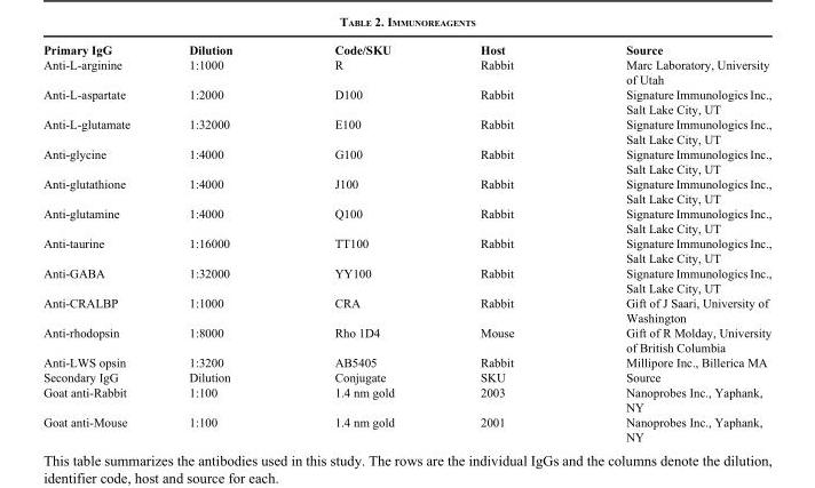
<table><tbody><tr><td>Primary IgG</td><td>Dilution</td><td>Code/SKU</td><td>Host</td><td>Source</td></tr><tr><td>Anti-L-arginine</td><td>1:1000</td><td>R</td><td>Rabbit</td><td>Marc Laboratory, University of Utah</td></tr><tr><td>Anti-L-aspartate</td><td>1:2000</td><td>D100</td><td>Rabbit</td><td>Signature Immunologics Inc., Salt Lake City, UT</td></tr><tr><td>Anti-L-glutamate</td><td>1:32000</td><td>E100</td><td>Rabbit</td><td>Signature Immunologics Inc., Salt Lake City, UT</td></tr><tr><td>Anti-glycine</td><td>1:4000</td><td>G100</td><td>Rabbit</td><td>Signature Immunologics Inc., Salt Lake City, UT</td></tr><tr><td>Anti-glutathione</td><td>1:4000</td><td>J100</td><td>Rabbit</td><td>Signature Immunologics Inc., Salt Lake City, UT</td></tr><tr><td>Anti-glutamine</td><td>1:4000</td><td>Q100</td><td>Rabbit</td><td>Signature Immunologics Inc., Salt Lake City, UT</td></tr><tr><td>Anti-taurine</td><td>1:16000</td><td>TT100</td><td>Rabbit</td><td>Signature Immunologics Inc., Salt Lake City, UT</td></tr><tr><td>Anti-GABA</td><td>1:32000</td><td>YY100</td><td>Rabbit</td><td>Signature Immunologics Inc., Salt Lake City, UT</td></tr><tr><td>Anti-CRALBP</td><td>1:1000</td><td>CRA</td><td>Rabbit</td><td>Gift of J Saari, University of Washington</td></tr><tr><td>Anti-rhodopsin</td><td>1:8000</td><td>Rho 1D4</td><td>Mouse</td><td>Gift of R Molday, University of British Columbia</td></tr><tr><td>Anti-LWS opsin</td><td>1:3200</td><td>AB5405</td><td>Rabbit</td><td>Millipore Inc., Billerica MA</td></tr><tr><td>Secondary IgG</td><td>Dilution</td><td>Conjugate</td><td>SKU</td><td>Source</td></tr><tr><td>Goat anti-Rabbit</td><td>1:100</td><td>1.4 nm gold</td><td>2003</td><td>Nanoprobes Inc., Yaphank, NY</td></tr><tr><td>Goat anti-Mouse</td><td>1:100</td><td>1.4 nm gold</td><td>2001</td><td>Nanoprobes Inc., Yaphank, NY</td></tr></tbody></table>